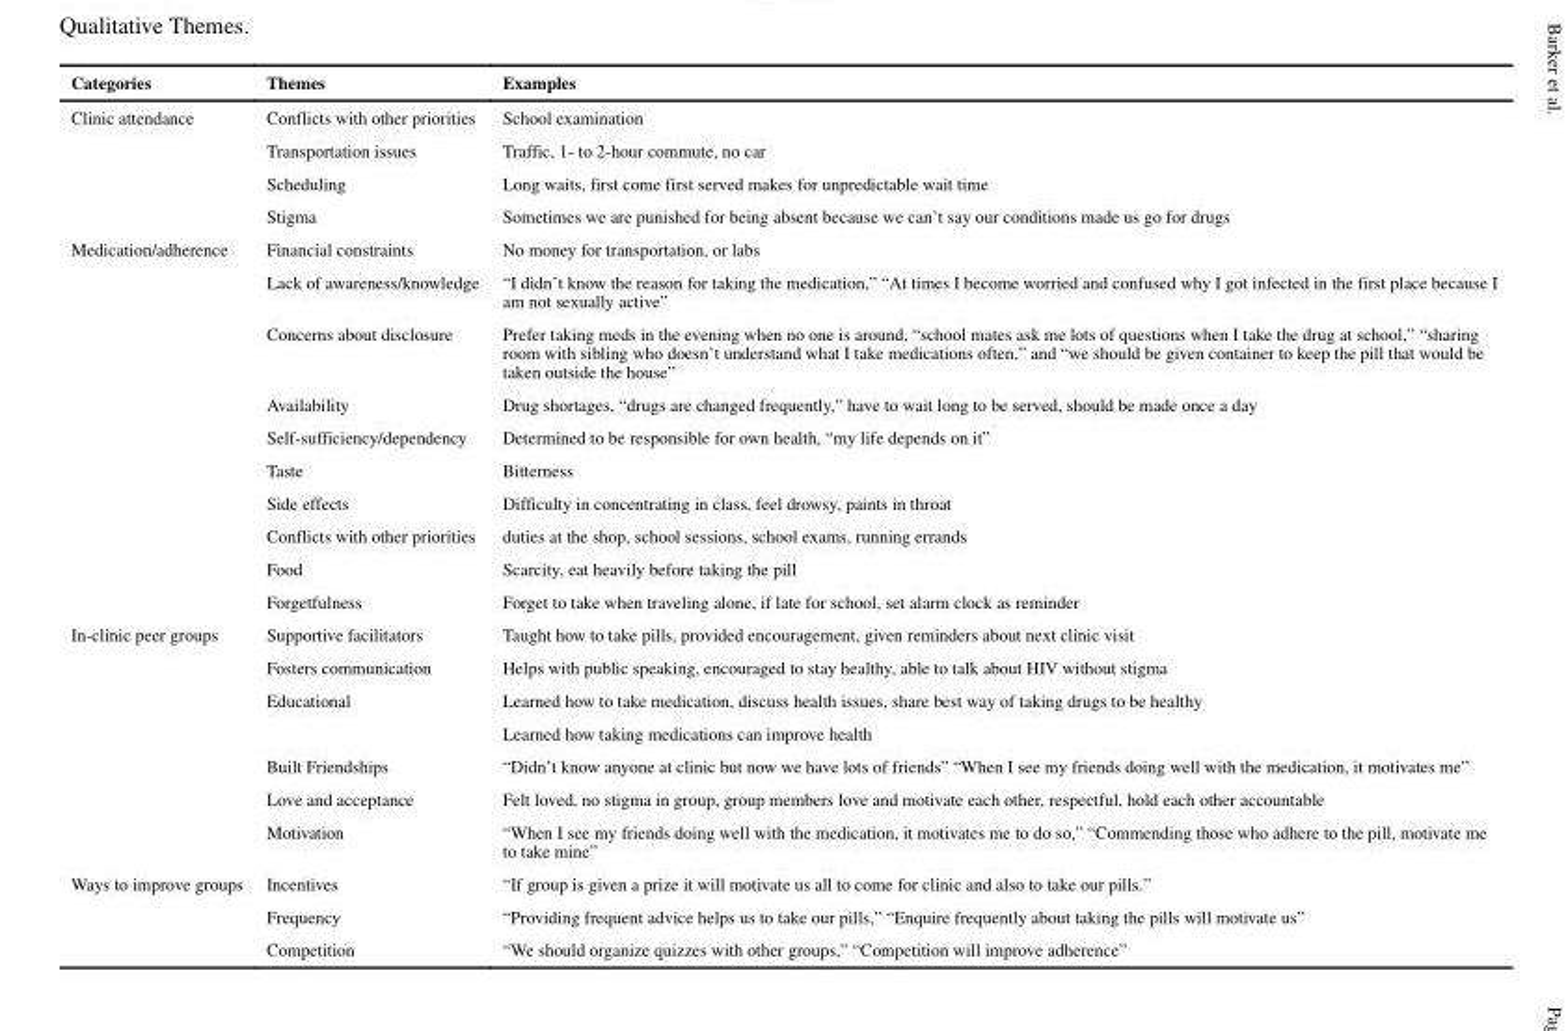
<table><thead><tr><td>Categories</td><td>Themes</td><td>Examples</td></tr></thead><tbody><tr><td rowspan="4">Clinic attendance</td><td>Conflicts with other priorities</td><td>School examination</td></tr><tr><td>Transportation issues</td><td>Traffic, 1- to 2-hour commute, no car</td></tr><tr><td>Scheduling</td><td>Long waits, first come first served makes for unpredictable wait time</td></tr><tr><td>Stigma</td><td>Sometimes we are punished for being absent because we can’t say our conditions made us go for drugs</td></tr><tr><td rowspan="10">Medication/adherence</td><td>Financial constraints</td><td>No money for transportation, or labs</td></tr><tr><td>Lack of awareness/knowledge</td><td>“I didn’t know the reason for taking the medication,” “At times I become worried and confused why I got infected in the first place because I am not sexually active”</td></tr><tr><td>Concerns about disclosure</td><td>Prefer taking meds in the evening when no one is around, “school mates ask me lots of questions when I take the drug at school,” “sharing room with sibling who doesn’t understand what I take medications often,” and “we should be given container to keep the pill that would be taken outside the house”</td></tr><tr><td>Availability</td><td>Drug shortages, “drugs are changed frequently,” have to wait long to be served, should be made once a day</td></tr><tr><td>Self-sufficiency/dependency</td><td>Determined to be responsible for own health, “my life depends on it”</td></tr><tr><td>Taste</td><td>Bitterness</td></tr><tr><td>Side effects</td><td>Difficulty in concentrating in class, feel drowsy, paints in throat</td></tr><tr><td>Conflicts with other priorities</td><td>duties at the shop, school sessions, school exams, running errands</td></tr><tr><td>Food</td><td>Scarcity, eat heavily before taking the pill</td></tr><tr><td>Forgetfulness</td><td>Forget to take when traveling alone, if late for school, set alarm clock as reminder</td></tr><tr><td rowspan="7">In-clinic peer groups</td><td>Supportive facilitators</td><td>Taught how to take pills, provided encouragement, given reminders about next clinic visit</td></tr><tr><td>Fosters communication</td><td>Helps with public speaking, encouraged to stay healthy, able to talk about HIV without stigma</td></tr><tr><td rowspan="2">Educational</td><td>Learned how to take medication, discuss health issues, share best way of taking drugs to be healthy</td></tr><tr><td>Learned how taking medications can improve health</td></tr><tr><td>Built Friendships</td><td>“Didn’t know anyone at clinic but now we have lots of friends” “When I see my friends doing well with the medication, it motivates me”</td></tr><tr><td>Love and acceptance</td><td>Felt loved, no stigma in group, group members love and motivate each other, respectful, hold each other accountable</td></tr><tr><td>Motivation</td><td>“When I see my friends doing well with the medication, it motivates me to do so,” “Commending those who adhere to the pill, motivate me to take mine”</td></tr><tr><td rowspan="3">Ways to improve groups</td><td>Incentives</td><td>“If group is given a prize it will motivate us all to come for clinic and also to take our pills.”</td></tr><tr><td>Frequency</td><td>“Providing frequent advice helps us to take our pills,” “Enquire frequently about taking the pills will motivate us”</td></tr><tr><td>Competition</td><td>“We should organize quizzes with other groups,” “Competition will improve adherence”</td></tr></tbody></table>